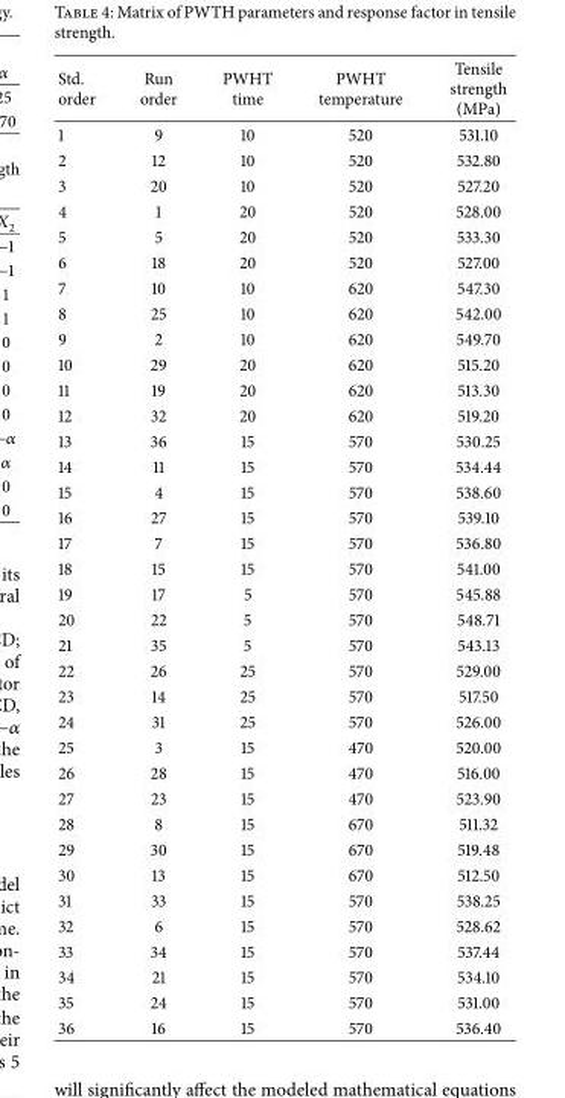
<table><thead><tr><td>Std. order</td><td>Run order</td><td>PWHT time</td><td>PWHT temperature</td><td>Tensile strength (MPa)</td></tr></thead><tbody><tr><td>1</td><td>9</td><td>10</td><td>520</td><td>531.10</td></tr><tr><td>2</td><td>12</td><td>10</td><td>520</td><td>532.80</td></tr><tr><td>3</td><td>20</td><td>10</td><td>520</td><td>527.20</td></tr><tr><td>4</td><td>1</td><td>20</td><td>520</td><td>528.00</td></tr><tr><td>5</td><td>5</td><td>20</td><td>520</td><td>533.30</td></tr><tr><td>6</td><td>18</td><td>20</td><td>520</td><td>527.00</td></tr><tr><td>7</td><td>10</td><td>10</td><td>620</td><td>547.30</td></tr><tr><td>8</td><td>25</td><td>10</td><td>620</td><td>542.00</td></tr><tr><td>9</td><td>2</td><td>10</td><td>620</td><td>549.70</td></tr><tr><td>10</td><td>29</td><td>20</td><td>620</td><td>515.20</td></tr><tr><td>11</td><td>19</td><td>20</td><td>620</td><td>513.30</td></tr><tr><td>12</td><td>32</td><td>20</td><td>620</td><td>519.20</td></tr><tr><td>13</td><td>36</td><td>15</td><td>570</td><td>530.25</td></tr><tr><td>14</td><td>11</td><td>15</td><td>570</td><td>534.44</td></tr><tr><td>15</td><td>4</td><td>15</td><td>570</td><td>538.60</td></tr><tr><td>16</td><td>27</td><td>15</td><td>570</td><td>539.10</td></tr><tr><td>17</td><td>7</td><td>15</td><td>570</td><td>536.80</td></tr><tr><td>18</td><td>15</td><td>15</td><td>570</td><td>541.00</td></tr><tr><td>19</td><td>17</td><td>5</td><td>570</td><td>545.88</td></tr><tr><td>20</td><td>22</td><td>5</td><td>570</td><td>548.71</td></tr><tr><td>21</td><td>35</td><td>5</td><td>570</td><td>543.13</td></tr><tr><td>22</td><td>26</td><td>25</td><td>570</td><td>529.00</td></tr><tr><td>23</td><td>14</td><td>25</td><td>570</td><td>517.50</td></tr><tr><td>24</td><td>31</td><td>25</td><td>570</td><td>526.00</td></tr><tr><td>25</td><td>3</td><td>15</td><td>470</td><td>520.00</td></tr><tr><td>26</td><td>28</td><td>15</td><td>470</td><td>516.00</td></tr><tr><td>27</td><td>23</td><td>15</td><td>470</td><td>523.90</td></tr><tr><td>28</td><td>8</td><td>15</td><td>670</td><td>511.32</td></tr><tr><td>29</td><td>30</td><td>15</td><td>670</td><td>519.48</td></tr><tr><td>30</td><td>13</td><td>15</td><td>670</td><td>512.50</td></tr><tr><td>31</td><td>33</td><td>15</td><td>570</td><td>538.25</td></tr><tr><td>32</td><td>6</td><td>15</td><td>570</td><td>528.62</td></tr><tr><td>33</td><td>34</td><td>15</td><td>570</td><td>537.44</td></tr><tr><td>34</td><td>21</td><td>15</td><td>570</td><td>534.10</td></tr><tr><td>35</td><td>24</td><td>15</td><td>570</td><td>531.00</td></tr><tr><td>36</td><td>16</td><td>15</td><td>570</td><td>536.40</td></tr></tbody></table>